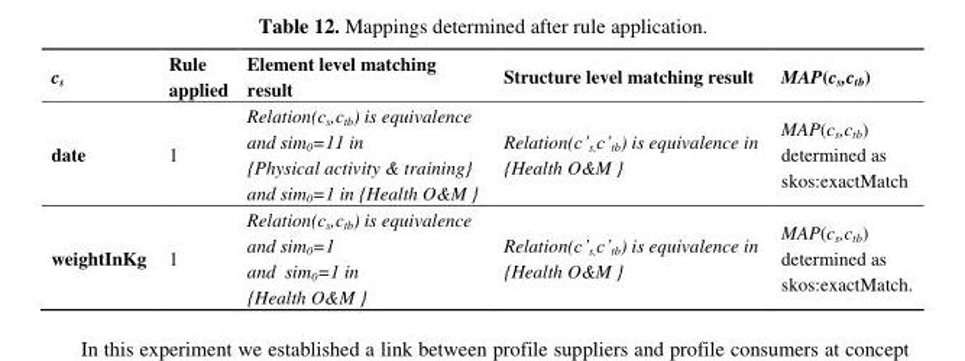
<table><thead><tr><td>c<sub>s</sub></td><td>Rule applied</td><td>Element level matching result</td><td>Structure level matching result</td><td>MAP(c<sub>s</sub>,c<sub>tb</sub>)</td></tr></thead><tbody><tr><td>date</td><td>1</td><td>Relation(c<sub>s</sub>,c<sub>tb</sub>) is equivalence and sim<sub>0</sub>=11 in {Physical activity &amp; training} and sim<sub>0</sub>=1 in {Health O&amp;M }</td><td>Relation(c’<sub>s</sub>,c’<sub>tb</sub>) is equivalence in {Health O&amp;M }</td><td>MAP(c<sub>s</sub>,c<sub>tb</sub>) determined as skos:exactMatch</td></tr><tr><td>weightInKg</td><td>1</td><td>Relation(c<sub>s</sub>,c<sub>tb</sub>) is equivalence and sim<sub>0</sub>=1 and sim<sub>0</sub>=1 in {Health O&amp;M }</td><td>Relation(c’<sub>s</sub>,c’<sub>tb</sub>) is equivalence in {Health O&amp;M }</td><td>MAP(c<sub>s</sub>,c<sub>tb</sub>) determined as skos:exactMatch.</td></tr></tbody></table>